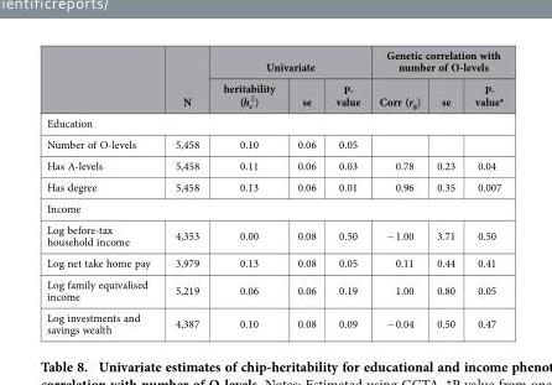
<table><thead><tr><td rowspan="2"></td><td rowspan="2">N</td><td colspan="3">Univariate</td><td colspan="3">Genetic correlation with number of O-levels</td></tr><tr><td>heritability (hc 2)</td><td>se</td><td>P- value</td><td>Corr (r<sub>g</sub>)</td><td>se</td><td>P- value*</td></tr></thead><tbody><tr><td colspan="8">Education</td></tr><tr><td>Number of O-levels</td><td>5,458</td><td>0.10</td><td>0.06</td><td>0.05</td><td></td><td></td><td></td></tr><tr><td>Has A-levels</td><td>5,458</td><td>0.11</td><td>0.06</td><td>0.03</td><td>0.78</td><td>0.23</td><td>0.04</td></tr><tr><td>Has degree</td><td>5,458</td><td>0.13</td><td>0.06</td><td>0.01</td><td>0.96</td><td>0.35</td><td>0.007</td></tr><tr><td colspan="8">Income</td></tr><tr><td>Log before-tax household income</td><td>4,353</td><td>0.00</td><td>0.08</td><td>0.50</td><td>− 1.00</td><td>3.71</td><td>0.50</td></tr><tr><td>Log net take home pay</td><td>3,979</td><td>0.13</td><td>0.08</td><td>0.05</td><td>0.11</td><td>0.44</td><td>0.41</td></tr><tr><td>Log family equivalised income</td><td>5,219</td><td>0.06</td><td>0.06</td><td>0.19</td><td>1.00</td><td>0.80</td><td>0.05</td></tr><tr><td>Log investments and savings wealth</td><td>4,387</td><td>0.10</td><td>0.08</td><td>0.09</td><td>− 0.04</td><td>0.50</td><td>0.47</td></tr></tbody></table>